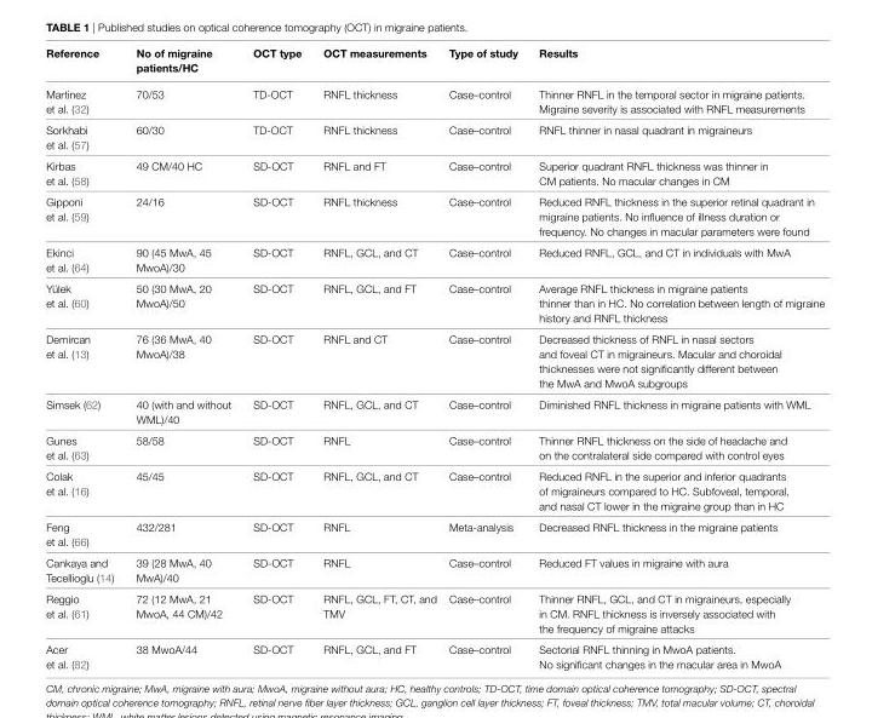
<table><thead><tr><td>Reference</td><td>no of migraine patients/HC</td><td>OCT type</td><td>OCT measurements</td><td>Type of study</td><td>Results</td></tr></thead><tbody><tr><td>Martinez et al. (32)</td><td>70/53</td><td>TD-OCT</td><td>RNFL thickness</td><td>Case–control</td><td>Thinner RNFL in the temporal sector in migraine patients. Migraine severity is associated with RNFL measurements</td></tr><tr><td>Sorkhabi et al. (57)</td><td>60/30</td><td>TD-OCT</td><td>RNFL thickness</td><td>Case–control</td><td>RNFL thinner in nasal quadrant in migraineurs</td></tr><tr><td>Kirbas et al. (58)</td><td>49 CM/40 HC</td><td>SD-OCT</td><td>RNFL and FT</td><td>Case–control</td><td>Superior quadrant RNFL thickness was thinner in CM patients. No macular changes in CM</td></tr><tr><td>Gipponi et al. (59)</td><td>24/16</td><td>SD-OCT</td><td>RNFL thickness</td><td>Case–control</td><td>Reduced RNFL thickness in the superior retinal quadrant in migraine patients. No influence of illness duration or frequency. No changes in macular parameters were found</td></tr><tr><td>Ekinci et al. (64)</td><td>90 (45 MwA, 45 MwoA)/30</td><td>SD-OCT</td><td>RNFL, GCL, and CT</td><td>Case–control</td><td>Reduced RNFL, GCL, and CT in individuals with MwA</td></tr><tr><td>Yülek et al. (60)</td><td>50 (30 MwA, 20 MwoA)/50</td><td>SD-OCT</td><td>RNFL, GCL, and FT</td><td>Case–control</td><td>Average RNFL thickness in migraine patients thinner than in HC. No correlation between length of migraine history and RNFL thickness</td></tr><tr><td>Demircan et al. (13)</td><td>76 (36 MwA, 40 MwoA)/38</td><td>SD-OCT</td><td>RNFL and CT</td><td>Case–control</td><td>Decreased thickness of RNFL in nasal sectors and foveal CT in migraineurs. Macular and choroidal thicknesses were not significantly different between the MwA and MwoA subgroups</td></tr><tr><td>Simsek (62)</td><td>40 (with and without WML)/40</td><td>SD-OCT</td><td>RNFL, GCL, and CT</td><td>Case–control</td><td>Diminished RNFL thickness in migraine patients with WML</td></tr><tr><td>Gunes et al. (63)</td><td>58/58</td><td>SD-OCT</td><td>RNFL</td><td>Case–control</td><td>Thinner RNFL thickness on the side of headache and on the contralateral side compared with control eyes</td></tr><tr><td>Colak et al. (16)</td><td>45/45</td><td>SD-OCT</td><td>RNFL, GCL, and CT</td><td>Case–control</td><td>Reduced RNFL in the superior and inferior quadrants of migraineurs compared to HC. Subfoveal, temporal, and nasal CT lower in the migraine group than in HC</td></tr><tr><td>Feng et al. (66)</td><td>432/281</td><td>SD-OCT</td><td>RNFL</td><td>Meta-analysis</td><td>Decreased RNFL thickness in the migraine patients</td></tr><tr><td>Cankaya and Tecellioglu (14)</td><td>39 (28 MwA, 40 MwA)/40</td><td>SD-OCT</td><td>RNFL</td><td>Case–control</td><td>Reduced FT values in migraine with aura</td></tr><tr><td>Reggio et al. (61)</td><td>72 (12 MwA, 21 MwoA, 44 CM)/42</td><td>SD-OCT</td><td>RNFL, GCL, FT, CT, and TMV</td><td>Case–control</td><td>Thinner RNFL, GCL, and CT in migraineurs, especially in CM. RNFL thickness is inversely associated with the frequency of migraine attacks</td></tr><tr><td>Acer et al. (82)</td><td>38 MwoA/44</td><td>SD-OCT</td><td>RNFL, GCL, and FT</td><td>Case–control</td><td>Sectorial RNFL thinning in MwoA patients. No significant changes in the macular area in MwoA</td></tr></tbody></table>